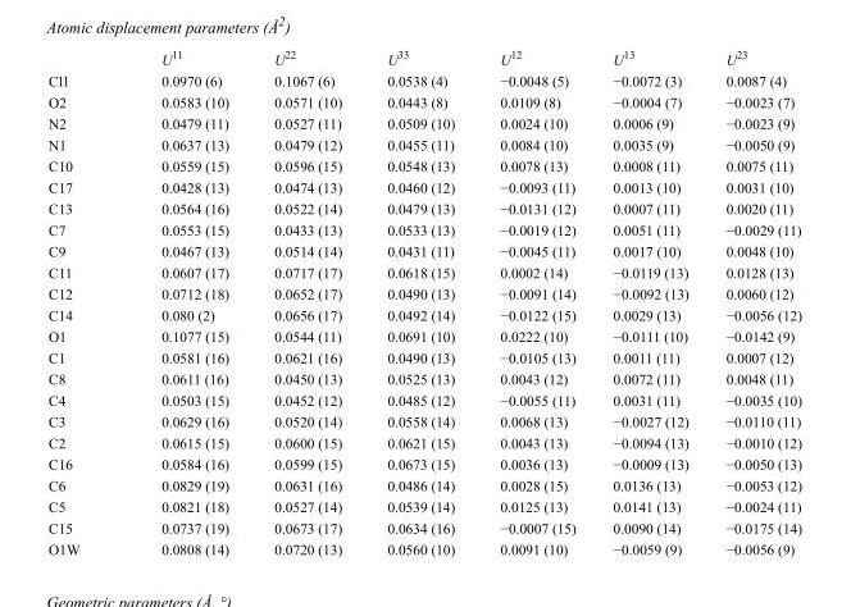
<table><thead><tr><td></td><td>U<sup>11</sup></td><td>U<sup>22</sup></td><td>U<sup>33</sup></td><td>U<sup>12</sup></td><td>U<sup>13</sup></td><td>U<sup>23</sup></td></tr></thead><tbody><tr><td>Cl1</td><td>0.0970 (6)</td><td>0.1067 (6)</td><td>0.0538 (4)</td><td>−0.0048 (5)</td><td>−0.0072 (3)</td><td>0.0087 (4)</td></tr><tr><td>O2</td><td>0.0583 (10)</td><td>0.0571 (10)</td><td>0.0443 (8)</td><td>0.0109 (8)</td><td>−0.0004 (7)</td><td>−0.0023 (7)</td></tr><tr><td>N2</td><td>0.0479 (11)</td><td>0.0527 (11)</td><td>0.0509 (10)</td><td>0.0024 (10)</td><td>0.0006 (9)</td><td>−0.0023 (9)</td></tr><tr><td>N1</td><td>0.0637 (13)</td><td>0.0479 (12)</td><td>0.0455 (11)</td><td>0.0084 (10)</td><td>0.0035 (9)</td><td>−0.0050 (9)</td></tr><tr><td>C10</td><td>0.0559 (15)</td><td>0.0596 (15)</td><td>0.0548 (13)</td><td>0.0078 (13)</td><td>0.0008 (11)</td><td>0.0075 (11)</td></tr><tr><td>C17</td><td>0.0428 (13)</td><td>0.0474 (13)</td><td>0.0460 (12)</td><td>−0.0093 (11)</td><td>0.0013 (10)</td><td>0.0031 (10)</td></tr><tr><td>C13</td><td>0.0564 (16)</td><td>0.0522 (14)</td><td>0.0479 (13)</td><td>−0.0131 (12)</td><td>0.0007 (11)</td><td>0.0020 (11)</td></tr><tr><td>C7</td><td>0.0553 (15)</td><td>0.0433 (13)</td><td>0.0533 (13)</td><td>−0.0019 (12)</td><td>0.0051 (11)</td><td>−0.0029 (11)</td></tr><tr><td>C9</td><td>0.0467 (13)</td><td>0.0514 (14)</td><td>0.0431 (11)</td><td>−0.0045 (11)</td><td>0.0017 (10)</td><td>0.0048 (10)</td></tr><tr><td>C11</td><td>0.0607 (17)</td><td>0.0717 (17)</td><td>0.0618 (15)</td><td>0.0002 (14)</td><td>−0.0119 (13)</td><td>0.0128 (13)</td></tr><tr><td>C12</td><td>0.0712 (18)</td><td>0.0652 (17)</td><td>0.0490 (13)</td><td>−0.0091 (14)</td><td>−0.0092 (13)</td><td>0.0060 (12)</td></tr><tr><td>C14</td><td>0.080 (2)</td><td>0.0656 (17)</td><td>0.0492 (14)</td><td>−0.0122 (15)</td><td>0.0029 (13)</td><td>−0.0056 (12)</td></tr><tr><td>O1</td><td>0.1077 (15)</td><td>0.0544 (11)</td><td>0.0691 (10)</td><td>0.0222 (10)</td><td>−0.0111 (10)</td><td>−0.0142 (9)</td></tr><tr><td>C1</td><td>0.0581 (16)</td><td>0.0621 (16)</td><td>0.0490 (13)</td><td>−0.0105 (13)</td><td>0.0011 (11)</td><td>0.0007 (12)</td></tr><tr><td>C8</td><td>0.0611 (16)</td><td>0.0450 (13)</td><td>0.0525 (13)</td><td>0.0043 (12)</td><td>0.0072 (11)</td><td>0.0048 (11)</td></tr><tr><td>C4</td><td>0.0503 (15)</td><td>0.0452 (12)</td><td>0.0485 (12)</td><td>−0.0055 (11)</td><td>0.0031 (11)</td><td>−0.0035 (10)</td></tr><tr><td>C3</td><td>0.0629 (16)</td><td>0.0520 (14)</td><td>0.0558 (14)</td><td>0.0068 (13)</td><td>−0.0027 (12)</td><td>−0.0110 (11)</td></tr><tr><td>C2</td><td>0.0615 (15)</td><td>0.0600 (15)</td><td>0.0621 (15)</td><td>0.0043 (13)</td><td>−0.0094 (13)</td><td>−0.0010 (12)</td></tr><tr><td>C16</td><td>0.0584 (16)</td><td>0.0599 (15)</td><td>0.0673 (15)</td><td>0.0036 (13)</td><td>−0.0009 (13)</td><td>−0.0050 (13)</td></tr><tr><td>C6</td><td>0.0829 (19)</td><td>0.0631 (16)</td><td>0.0486 (14)</td><td>0.0028 (15)</td><td>0.0136 (13)</td><td>−0.0053 (12)</td></tr><tr><td>C5</td><td>0.0821 (18)</td><td>0.0527 (14)</td><td>0.0539 (14)</td><td>0.0125 (13)</td><td>0.0141 (13)</td><td>−0.0024 (11)</td></tr><tr><td>C15</td><td>0.0737 (19)</td><td>0.0673 (17)</td><td>0.0634 (16)</td><td>−0.0007 (15)</td><td>0.0090 (14)</td><td>−0.0175 (14)</td></tr><tr><td>O1W</td><td>0.0808 (14)</td><td>0.0720 (13)</td><td>0.0560 (10)</td><td>0.0091 (10)</td><td>−0.0059 (9)</td><td>−0.0056 (9)</td></tr></tbody></table>